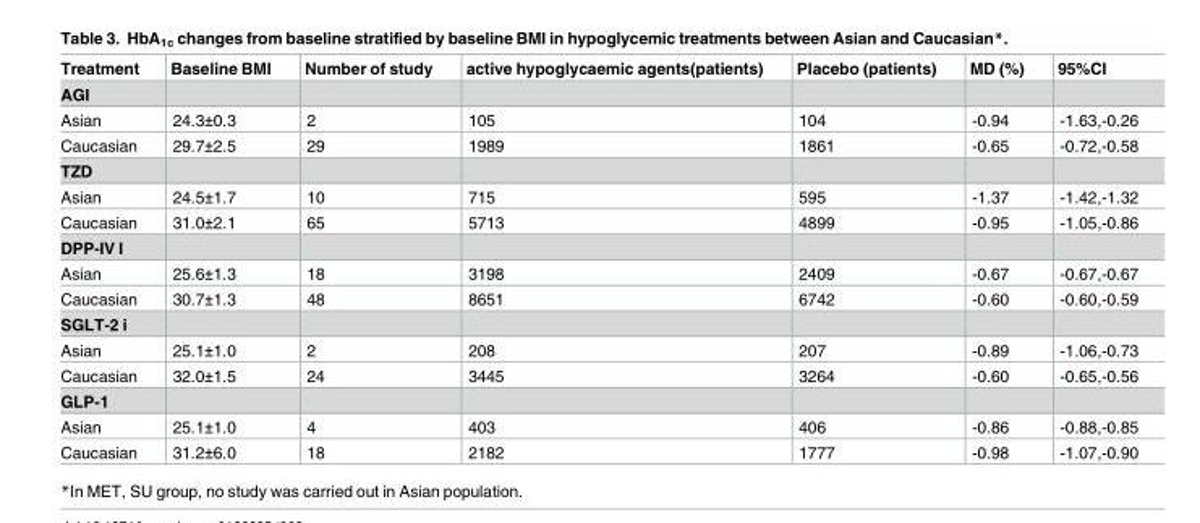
<table><thead><tr><td>Treatment</td><td>Baseline BMI</td><td>Number of study</td><td>active hypoglycaemic agents(patients)</td><td>Placebo (patients)</td><td>MD (%)</td><td>95%CI</td></tr></thead><tbody><tr><td colspan="7">AGI</td></tr><tr><td>Asian</td><td>24.3±0.3</td><td>2</td><td>105</td><td>104</td><td>-0.94</td><td>-1.63,-0.26</td></tr><tr><td>Caucasian</td><td>29.7±2.5</td><td>29</td><td>1989</td><td>1861</td><td>-0.65</td><td>-0.72,-0.58</td></tr><tr><td colspan="7">TZD</td></tr><tr><td>Asian</td><td>24.5±1.7</td><td>10</td><td>715</td><td>595</td><td>-1.37</td><td>-1.42,-1.32</td></tr><tr><td>Caucasian</td><td>31.0±2.1</td><td>65</td><td>5713</td><td>4899</td><td>-0.95</td><td>-1.05,-0.86</td></tr><tr><td colspan="7">DPP-IV I</td></tr><tr><td>Asian</td><td>25.6±1.3</td><td>18</td><td>3198</td><td>2409</td><td>-0.67</td><td>-0.67,-0.67</td></tr><tr><td>Caucasian</td><td>30.7±1.3</td><td>48</td><td>8651</td><td>6742</td><td>-0.60</td><td>-0.60,-0.59</td></tr><tr><td colspan="7">SGLT-2 i</td></tr><tr><td>Asian</td><td>25.1±1.0</td><td>2</td><td>208</td><td>207</td><td>-0.89</td><td>-1.06,-0.73</td></tr><tr><td>Caucasian</td><td>32.0±1.5</td><td>24</td><td>3445</td><td>3264</td><td>-0.60</td><td>-0.65,-0.56</td></tr><tr><td colspan="7">GLP-1</td></tr><tr><td>Asian</td><td>25.1±1.0</td><td>4</td><td>403</td><td>406</td><td>-0.86</td><td>-0.88,-0.85</td></tr><tr><td>Caucasian</td><td>31.2±6.0</td><td>18</td><td>2182</td><td>1777</td><td>-0.98</td><td>-1.07,-0.90</td></tr></tbody></table>